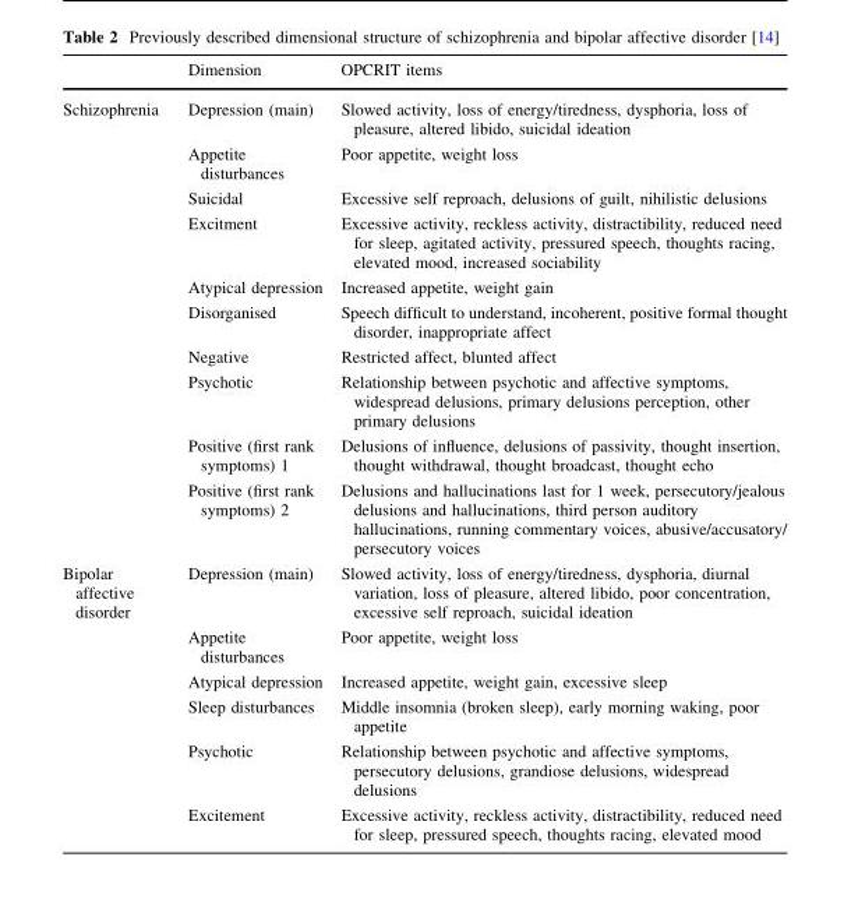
<table><thead><tr><td></td><td>Dimension</td><td>OPCRIT items</td></tr></thead><tbody><tr><td rowspan="10">Schizophrenia</td><td>Depression (main)</td><td>Slowed activity, loss of energy/tiredness, dysphoria, loss of pleasure, altered libido, suicidal ideation</td></tr><tr><td>Appetite disturbances</td><td>Poor appetite, weight loss</td></tr><tr><td>Suicidal</td><td>Excessive self reproach, delusions of guilt, nihilistic delusions</td></tr><tr><td>Excitment</td><td>Excessive activity, reckless activity, distractibility, reduced need for sleep, agitated activity, pressured speech, thoughts racing, elevated mood, increased sociability</td></tr><tr><td>Atypical depression</td><td>Increased appetite, weight gain</td></tr><tr><td>Disorganised</td><td>Speech difficult to understand, incoherent, positive formal thought disorder, inappropriate affect</td></tr><tr><td>Negative</td><td>Restricted affect, blunted affect</td></tr><tr><td>Psychotic</td><td>Relationship between psychotic and affective symptoms, widespread delusions, primary delusions perception, other primary delusions</td></tr><tr><td>Positive (first rank symptoms) 1</td><td>Delusions of influence, delusions of passivity, thought insertion, thought withdrawal, thought broadcast, thought echo</td></tr><tr><td>Positive (first rank symptoms) 2</td><td>Delusions and hallucinations last for 1 week, persecutory/jealous delusions and hallucinations, third person auditory hallucinations, running commentary voices, abusive/accusatory/ persecutory voices</td></tr><tr><td rowspan="6">Bipolar affective disorder</td><td>Depression (main)</td><td>Slowed activity, loss of energy/tiredness, dysphoria, diurnal variation, loss of pleasure, altered libido, poor concentration, excessive self reproach, suicidal ideation</td></tr><tr><td>Appetite disturbances</td><td>Poor appetite, weight loss</td></tr><tr><td>Atypical depression</td><td>Increased appetite, weight gain, excessive sleep</td></tr><tr><td>Sleep disturbances</td><td>Middle insomnia (broken sleep), early morning waking, poor appetite</td></tr><tr><td>Psychotic</td><td>Relationship between psychotic and affective symptoms, persecutory delusions, grandiose delusions, widespread delusions</td></tr><tr><td>Excitement</td><td>Excessive activity, reckless activity, distractibility, reduced need for sleep, pressured speech, thoughts racing, elevated mood</td></tr></tbody></table>